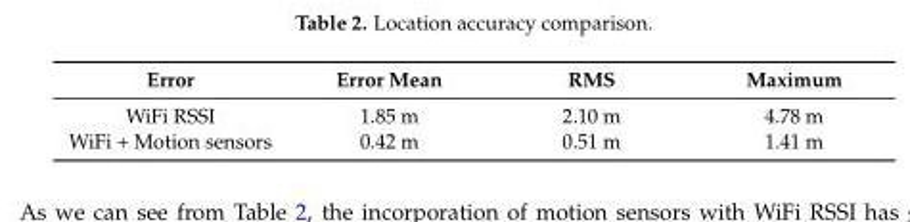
<table><thead><tr><td>Error</td><td>Error Mean</td><td>RMS</td><td>Maximum</td></tr></thead><tbody><tr><td>WiFi RSSI</td><td>1.85 m</td><td>2.10 m</td><td>4.78 m</td></tr><tr><td>WiFi + Motion sensors</td><td>0.42 m</td><td>0.51 m</td><td>1.41 m</td></tr></tbody></table>